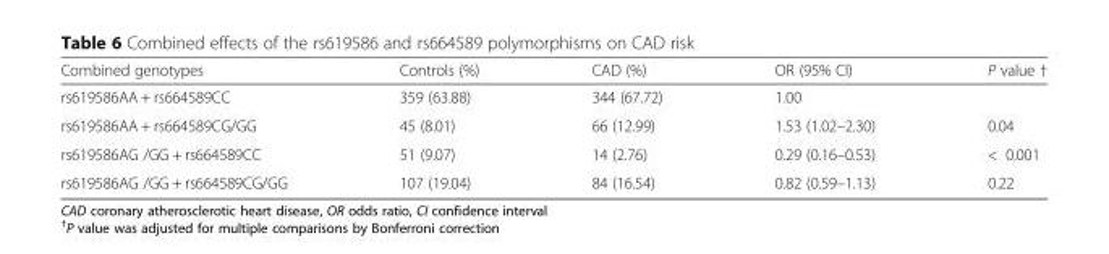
<table><thead><tr><td>Combined genotypes</td><td>Controls (%)</td><td>CAD (%)</td><td>OR (95% CI)</td><td>P value †</td></tr></thead><tbody><tr><td>rs619586AA + rs664589CC</td><td>359 (63.88)</td><td>344 (67.72)</td><td>1.00</td><td></td></tr><tr><td>rs619586AA + rs664589CG/GG</td><td>45 (8.01)</td><td>66 (12.99)</td><td>1.53 (1.02–2.30)</td><td>0.04</td></tr><tr><td>rs619586AG /GG + rs664589CC</td><td>51 (9.07)</td><td>14 (2.76)</td><td>0.29 (0.16–0.53)</td><td>&lt; 0.001</td></tr><tr><td>rs619586AG /GG + rs664589CG/GG</td><td>107 (19.04)</td><td>84 (16.54)</td><td>0.82 (0.59–1.13)</td><td>0.22</td></tr></tbody></table>